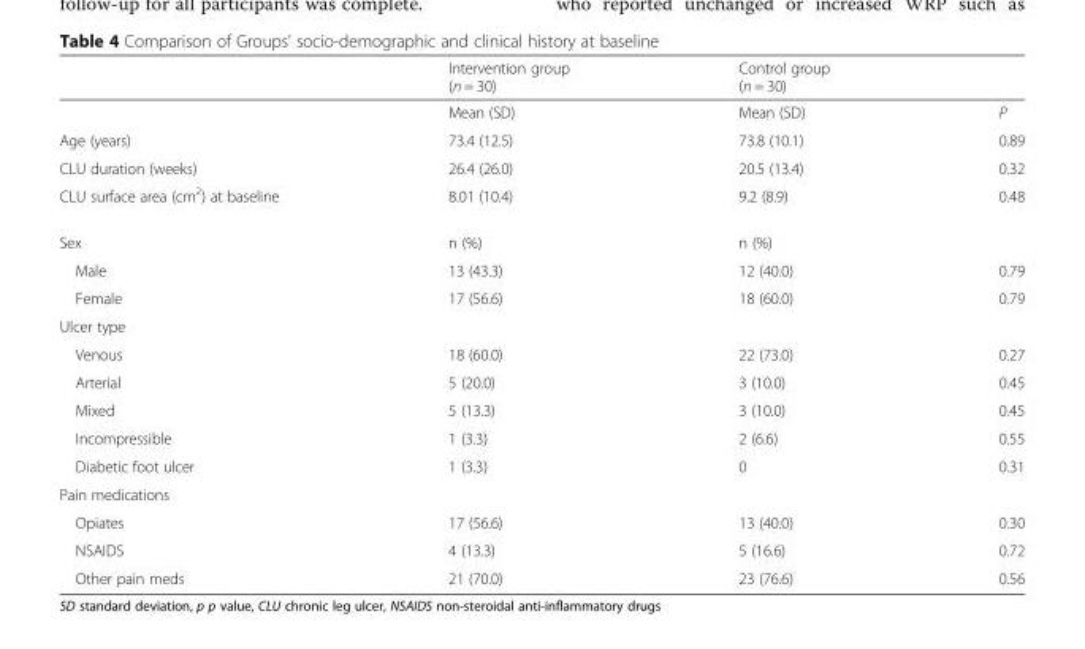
<table><thead><tr><td></td><td>Intervention group (n = 30)</td><td>Control group (n = 30)</td><td></td></tr></thead><tbody><tr><td></td><td>Mean (SD)</td><td>Mean (SD)</td><td>P</td></tr><tr><td>Age (years)</td><td>73.4 (12.5)</td><td>73.8 (10.1)</td><td>0.89</td></tr><tr><td>CLU duration (weeks)</td><td>26.4 (26.0)</td><td>20.5 (13.4)</td><td>0.32</td></tr><tr><td>CLU surface area (cm<sup>2</sup>) at baseline</td><td>8.01 (10.4)</td><td>9.2 (8.9)</td><td>0.48</td></tr><tr><td>Sex</td><td>n (%)</td><td>n (%)</td><td></td></tr><tr><td>Male</td><td>13 (43.3)</td><td>12 (40.0)</td><td>0.79</td></tr><tr><td>Female</td><td>17 (56.6)</td><td>18 (60.0)</td><td>0.79</td></tr><tr><td colspan="4">Ulcer type</td></tr><tr><td>Venous</td><td>18 (60.0)</td><td>22 (73.0)</td><td>0.27</td></tr><tr><td>Arterial</td><td>5 (20.0)</td><td>3 (10.0)</td><td>0.45</td></tr><tr><td>Mixed</td><td>5 (13.3)</td><td>3 (10.0)</td><td>0.45</td></tr><tr><td>Incompressible</td><td>1 (3.3)</td><td>2 (6.6)</td><td>0.55</td></tr><tr><td>Diabetic foot ulcer</td><td>1 (3.3)</td><td>0</td><td>0.31</td></tr><tr><td colspan="4">Pain medications</td></tr><tr><td>Opiates</td><td>17 (56.6)</td><td>13 (40.0)</td><td>0.30</td></tr><tr><td>NSAIDS</td><td>4 (13.3)</td><td>5 (16.6)</td><td>0.72</td></tr><tr><td>Other pain meds</td><td>21 (70.0)</td><td>23 (76.6)</td><td>0.56</td></tr></tbody></table>